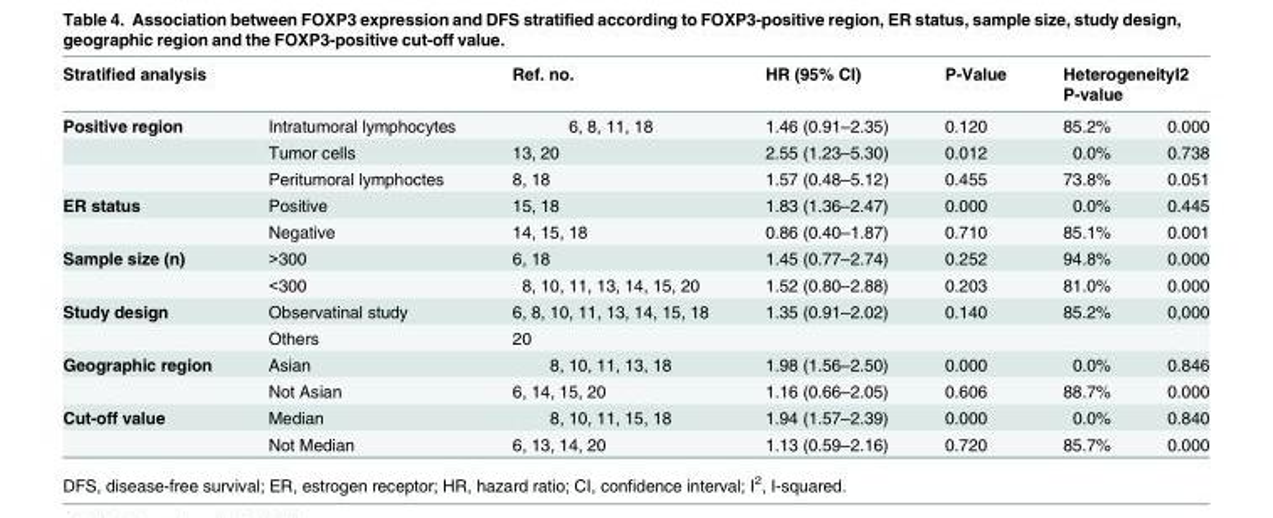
<table><thead><tr><td colspan="2">Stratified analysis</td><td rowspan="2">Ref. no. 6, 8, 11, 18</td><td rowspan="2">HR (95% CI) 1.46 (0.91–2.35)</td><td rowspan="2">P-Value 0.120</td><td colspan="2">HeterogeneityI2 P-value</td></tr><tr><td>Positive region</td><td>Intratumoral lymphocytes</td><td>85.2%</td><td>0.000</td></tr></thead><tbody><tr><td></td><td>Tumor cells</td><td>13, 20</td><td>2.55 (1.23–5.30)</td><td>0.012</td><td>0.0%</td><td>0.738</td></tr><tr><td></td><td>Peritumoral lymphoctes</td><td>8, 18</td><td>1.57 (0.48–5.12)</td><td>0.455</td><td>73.8%</td><td>0.051</td></tr><tr><td rowspan="2">ER status</td><td>Positive</td><td>15, 18</td><td>1.83 (1.36–2.47)</td><td>0.000</td><td>0.0%</td><td>0.445</td></tr><tr><td>Negative</td><td>14, 15, 18</td><td>0.86 (0.40–1.87)</td><td>0.710</td><td>85.1%</td><td>0.001</td></tr><tr><td rowspan="2">Sample size (n)</td><td>&gt;300</td><td>6, 18</td><td>1.45 (0.77–2.74)</td><td>0.252</td><td>94.8%</td><td>0.000</td></tr><tr><td>&lt;300</td><td>8, 10, 11, 13, 14, 15, 20</td><td>1.52 (0.80–2.88)</td><td>0.203</td><td>81.0%</td><td>0.000</td></tr><tr><td rowspan="2">Study design</td><td>Observatinal study</td><td>6, 8, 10, 11, 13, 14, 15, 18</td><td>1.35 (0.91–2.02)</td><td>0.140</td><td>85.2%</td><td>0,000</td></tr><tr><td>Others</td><td>20</td><td>ˉ</td><td>ˉ</td><td>ˉ</td><td>ˉ</td></tr><tr><td rowspan="2">Geographic region</td><td>Asian</td><td>8, 10, 11, 13, 18</td><td>1.98 (1.56–2.50)</td><td>0.000</td><td>0.0%</td><td>0.846</td></tr><tr><td>Not Asian</td><td>6, 14, 15, 20</td><td>1.16 (0.66–2.05)</td><td>0.606</td><td>88.7%</td><td>0.000</td></tr><tr><td rowspan="2">Cut-off value</td><td>Median</td><td>8, 10, 11, 15, 18</td><td>1.94 (1.57–2.39)</td><td>0.000</td><td>0.0%</td><td>0.840</td></tr><tr><td>Not Median</td><td>6, 13, 14, 20</td><td>1.13 (0.59–2.16)</td><td>0.720</td><td>85.7%</td><td>0.000</td></tr></tbody></table>